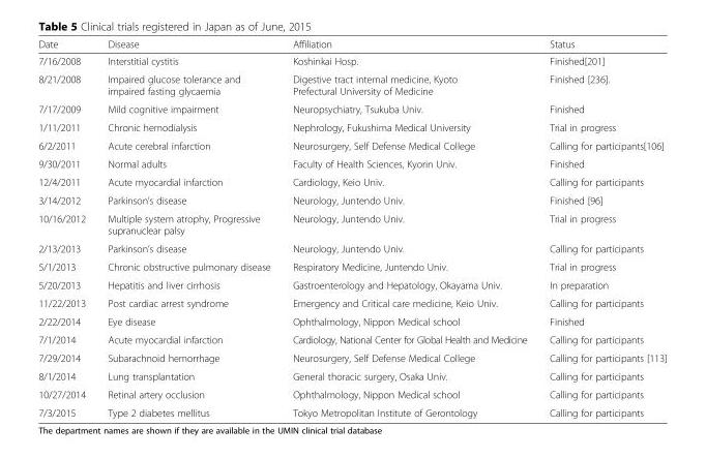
<table><thead><tr><td>Date</td><td>Disease</td><td>Affiliation</td><td>Status</td></tr></thead><tbody><tr><td>7/16/2008</td><td>Interstitial cystitis</td><td>Koshinkai Hosp.</td><td>Finished[201]</td></tr><tr><td>8/21/2008</td><td>Impaired glucose tolerance and impaired fasting glycaemia</td><td>Digestive tract internal medicine, Kyoto Prefectural University of Medicine</td><td>Finished [236].</td></tr><tr><td>7/17/2009</td><td>Mild cognitive impairment</td><td>Neuropsychiatry, Tsukuba Univ.</td><td>Finished</td></tr><tr><td>1/11/2011</td><td>Chronic hemodialysis</td><td>Nephrology, Fukushima Medical University</td><td>Trial in progress</td></tr><tr><td>6/2/2011</td><td>Acute cerebral infarction</td><td>Neurosurgery, Self Defense Medical College</td><td>Calling for participants[106]</td></tr><tr><td>9/30/2011</td><td>Normal adults</td><td>Faculty of Health Sciences, Kyorin Univ.</td><td>Finished</td></tr><tr><td>12/4/2011</td><td>Acute myocardial infarction</td><td>Cardiology, Keio Univ.</td><td>Calling for participants</td></tr><tr><td>3/14/2012</td><td>Parkinson’s disease</td><td>Neurology, Juntendo Univ.</td><td>Finished [96]</td></tr><tr><td>10/16/2012</td><td>Multiple system atrophy, Progressive supranuclear palsy</td><td>Neurology, Juntendo Univ.</td><td>Trial in progress</td></tr><tr><td>2/13/2013</td><td>Parkinson’s disease</td><td>Neurology, Juntendo Univ.</td><td>Calling for participants</td></tr><tr><td>5/1/2013</td><td>Chronic obstructive pulmonary disease</td><td>Respiratory Medicine, Juntendo Univ.</td><td>Trial in progress</td></tr><tr><td>5/20/2013</td><td>Hepatitis and liver cirrhosis</td><td>Gastroenterology and Hepatology, Okayama Univ.</td><td>In preparation</td></tr><tr><td>11/22/2013</td><td>Post cardiac arrest syndrome</td><td>Emergency and Critical care medicine, Keio Univ.</td><td>Calling for participants</td></tr><tr><td>2/22/2014</td><td>Eye disease</td><td>Ophthalmology, Nippon Medical school</td><td>Finished</td></tr><tr><td>7/1/2014</td><td>Acute myocardial infarction</td><td>Cardiology, National Center for Global Health and Medicine</td><td>Calling for participants</td></tr><tr><td>7/29/2014</td><td>Subarachnoid hemorrhage</td><td>Neurosurgery, Self Defense Medical College</td><td>Calling for participants [113]</td></tr><tr><td>8/1/2014</td><td>Lung transplantation</td><td>General thoracic surgery, Osaka Univ.</td><td>Calling for participants</td></tr><tr><td>10/27/2014</td><td>Retinal artery occlusion</td><td>Ophthalmology, Nippon Medical school</td><td>Calling for participants</td></tr><tr><td>7/3/2015</td><td>Type 2 diabetes mellitus</td><td>Tokyo Metropolitan Institute of Gerontology</td><td>Calling for participants</td></tr></tbody></table>